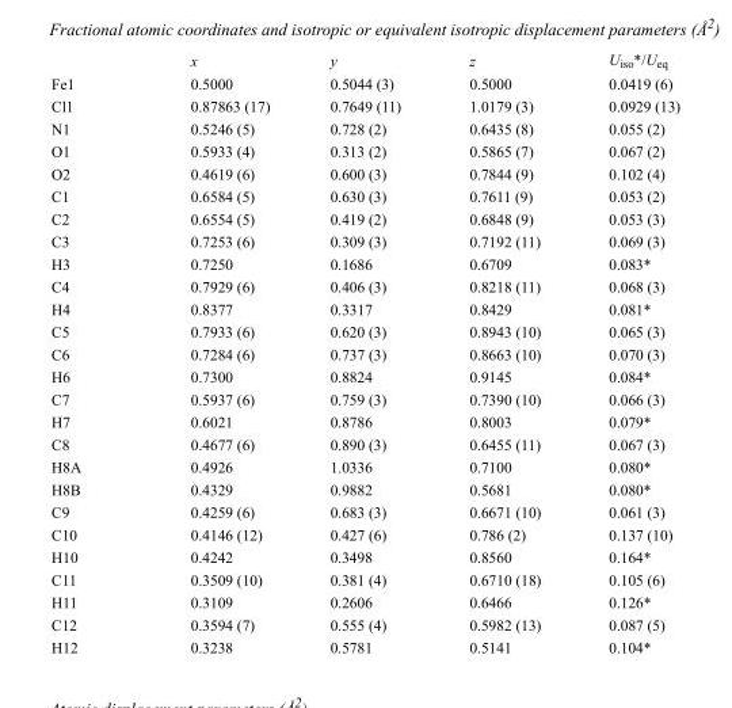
<table><thead><tr><td></td><td>x</td><td>y</td><td>z</td><td>U<sub>iso</sub>*/U<sub>eq</sub></td></tr></thead><tbody><tr><td>Fe1</td><td>0.5000</td><td>0.5044 (3)</td><td>0.5000</td><td>0.0419 (6)</td></tr><tr><td>Cl1</td><td>0.87863 (17)</td><td>0.7649 (11)</td><td>1.0179 (3)</td><td>0.0929 (13)</td></tr><tr><td>N1</td><td>0.5246 (5)</td><td>0.728 (2)</td><td>0.6435 (8)</td><td>0.055 (2)</td></tr><tr><td>O1</td><td>0.5933 (4)</td><td>0.313 (2)</td><td>0.5865 (7)</td><td>0.067 (2)</td></tr><tr><td>O2</td><td>0.4619 (6)</td><td>0.600 (3)</td><td>0.7844 (9)</td><td>0.102 (4)</td></tr><tr><td>C1</td><td>0.6584 (5)</td><td>0.630 (3)</td><td>0.7611 (9)</td><td>0.053 (2)</td></tr><tr><td>C2</td><td>0.6554 (5)</td><td>0.419 (2)</td><td>0.6848 (9)</td><td>0.053 (3)</td></tr><tr><td>C3</td><td>0.7253 (6)</td><td>0.309 (3)</td><td>0.7192 (11)</td><td>0.069 (3)</td></tr><tr><td>H3</td><td>0.7250</td><td>0.1686</td><td>0.6709</td><td>0.083*</td></tr><tr><td>C4</td><td>0.7929 (6)</td><td>0.406 (3)</td><td>0.8218 (11)</td><td>0.068 (3)</td></tr><tr><td>H4</td><td>0.8377</td><td>0.3317</td><td>0.8429</td><td>0.081*</td></tr><tr><td>C5</td><td>0.7933 (6)</td><td>0.620 (3)</td><td>0.8943 (10)</td><td>0.065 (3)</td></tr><tr><td>C6</td><td>0.7284 (6)</td><td>0.737 (3)</td><td>0.8663 (10)</td><td>0.070 (3)</td></tr><tr><td>H6</td><td>0.7300</td><td>0.8824</td><td>0.9145</td><td>0.084*</td></tr><tr><td>C7</td><td>0.5937 (6)</td><td>0.759 (3)</td><td>0.7390 (10)</td><td>0.066 (3)</td></tr><tr><td>H7</td><td>0.6021</td><td>0.8786</td><td>0.8003</td><td>0.079*</td></tr><tr><td>C8</td><td>0.4677 (6)</td><td>0.890 (3)</td><td>0.6455 (11)</td><td>0.067 (3)</td></tr><tr><td>H8A</td><td>0.4926</td><td>1.0336</td><td>0.7100</td><td>0.080*</td></tr><tr><td>H8B</td><td>0.4329</td><td>0.9882</td><td>0.5681</td><td>0.080*</td></tr><tr><td>C9</td><td>0.4259 (6)</td><td>0.683 (3)</td><td>0.6671 (10)</td><td>0.061 (3)</td></tr><tr><td>C10</td><td>0.4146 (12)</td><td>0.427 (6)</td><td>0.786 (2)</td><td>0.137 (10)</td></tr><tr><td>H10</td><td>0.4242</td><td>0.3498</td><td>0.8560</td><td>0.164*</td></tr><tr><td>C11</td><td>0.3509 (10)</td><td>0.381 (4)</td><td>0.6710 (18)</td><td>0.105 (6)</td></tr><tr><td>H11</td><td>0.3109</td><td>0.2606</td><td>0.6466</td><td>0.126*</td></tr><tr><td>C12</td><td>0.3594 (7)</td><td>0.555 (4)</td><td>0.5982 (13)</td><td>0.087 (5)</td></tr><tr><td>H12</td><td>0.3238</td><td>0.5781</td><td>0.5141</td><td>0.104*</td></tr></tbody></table>